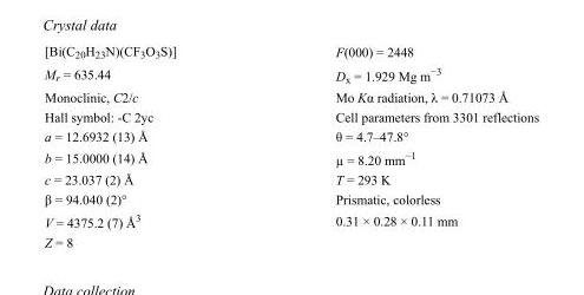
<table><tbody><tr><td>[Bi(C<sub>20</sub>H<sub>23</sub>N)(CF<sub>3</sub>O<sub>3</sub>S)]</td><td>F(000) = 2448</td></tr><tr><td>M<sub>r</sub> = 635.44</td><td>D<sub>x</sub> = 1.929 Mg m<sup>−3</sup></td></tr><tr><td>Monoclinic, C2/c</td><td>Mo Kα radiation, λ = 0.71073 Å</td></tr><tr><td>Hall symbol: -C 2yc</td><td>Cell parameters from 3301 reflections</td></tr><tr><td>a = 12.6932 (13) Å</td><td>θ = 4.7–47.8°</td></tr><tr><td>b = 15.0000 (14) Å</td><td>µ = 8.20 mm<sup>−1</sup></td></tr><tr><td>c = 23.037 (2) Å</td><td>T = 293 K</td></tr><tr><td>β = 94.040 (2)°</td><td>Prismatic, colorless</td></tr><tr><td>V = 4375.2 (7) Å<sup>3</sup></td><td>0.31 × 0.28 × 0.11 mm</td></tr><tr><td>Z = 8</td><td></td></tr></tbody></table>